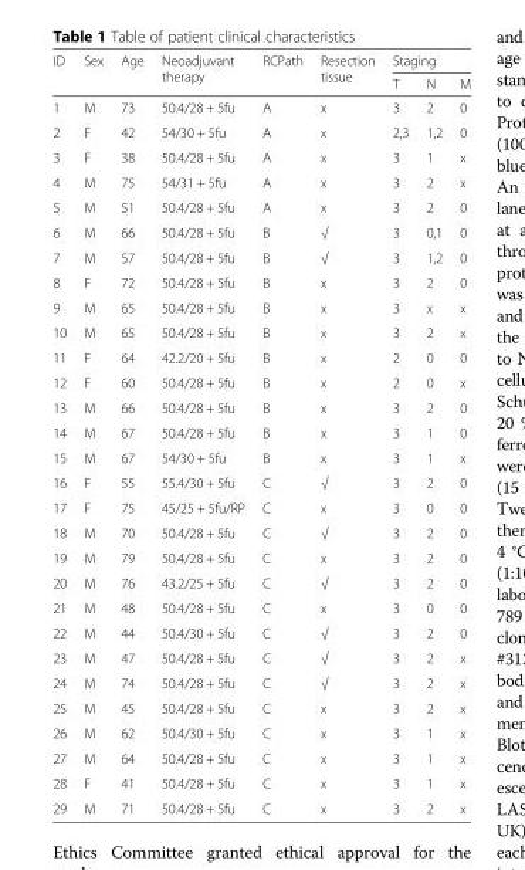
<table><thead><tr><td rowspan="2">ID</td><td rowspan="2">Sex</td><td rowspan="2">Age</td><td rowspan="2">Neoadjuvant therapy</td><td rowspan="2">RCPath</td><td rowspan="2">Resection tissue</td><td colspan="3">Staging</td></tr><tr><td>T</td><td>N</td><td>M</td></tr></thead><tbody><tr><td>1</td><td>M</td><td>73</td><td>50.4/28 + 5fu</td><td>A</td><td>x</td><td>3</td><td>2</td><td>0</td></tr><tr><td>2</td><td>F</td><td>42</td><td>54/30 + 5fu</td><td>A</td><td>x</td><td>2,3</td><td>1,2</td><td>0</td></tr><tr><td>3</td><td>F</td><td>38</td><td>50.4/28 + 5fu</td><td>A</td><td>x</td><td>3</td><td>1</td><td>x</td></tr><tr><td>4</td><td>M</td><td>75</td><td>54/31 + 5fu</td><td>A</td><td>x</td><td>3</td><td>2</td><td>x</td></tr><tr><td>5</td><td>M</td><td>51</td><td>50.4/28 + 5fu</td><td>A</td><td>x</td><td>3</td><td>2</td><td>0</td></tr><tr><td>6</td><td>M</td><td>66</td><td>50.4/28 + 5fu</td><td>B</td><td>√</td><td>3</td><td>0,1</td><td>0</td></tr><tr><td>7</td><td>M</td><td>57</td><td>50.4/28 + 5fu</td><td>B</td><td>√</td><td>3</td><td>1,2</td><td>0</td></tr><tr><td>8</td><td>F</td><td>72</td><td>50.4/28 + 5fu</td><td>B</td><td>x</td><td>3</td><td>2</td><td>0</td></tr><tr><td>9</td><td>M</td><td>65</td><td>50.4/28 + 5fu</td><td>B</td><td>x</td><td>3</td><td>x</td><td>x</td></tr><tr><td>10</td><td>M</td><td>65</td><td>50.4/28 + 5fu</td><td>B</td><td>x</td><td>3</td><td>2</td><td>x</td></tr><tr><td>11</td><td>F</td><td>64</td><td>42.2/20 + 5fu</td><td>B</td><td>x</td><td>2</td><td>0</td><td>0</td></tr><tr><td>12</td><td>F</td><td>60</td><td>50.4/28 + 5fu</td><td>B</td><td>x</td><td>2</td><td>0</td><td>x</td></tr><tr><td>13</td><td>M</td><td>66</td><td>50.4/28 + 5fu</td><td>B</td><td>x</td><td>3</td><td>2</td><td>0</td></tr><tr><td>14</td><td>M</td><td>67</td><td>50.4/28 + 5fu</td><td>B</td><td>x</td><td>3</td><td>1</td><td>0</td></tr><tr><td>15</td><td>M</td><td>67</td><td>54/30 + 5fu</td><td>B</td><td>x</td><td>3</td><td>1</td><td>x</td></tr><tr><td>16</td><td>F</td><td>55</td><td>55.4/30 + 5fu</td><td>C</td><td>√</td><td>3</td><td>2</td><td>0</td></tr><tr><td>17</td><td>F</td><td>75</td><td>45/25 + 5fu/RP</td><td>C</td><td>x</td><td>3</td><td>0</td><td>0</td></tr><tr><td>18</td><td>M</td><td>70</td><td>50.4/28 + 5fu</td><td>C</td><td>√</td><td>3</td><td>2</td><td>0</td></tr><tr><td>19</td><td>M</td><td>79</td><td>50.4/28 + 5fu</td><td>C</td><td>x</td><td>3</td><td>2</td><td>0</td></tr><tr><td>20</td><td>M</td><td>76</td><td>43.2/25 + 5fu</td><td>C</td><td>√</td><td>3</td><td>2</td><td>0</td></tr><tr><td>21</td><td>M</td><td>48</td><td>50.4/28 + 5fu</td><td>C</td><td>x</td><td>3</td><td>0</td><td>0</td></tr><tr><td>22</td><td>M</td><td>44</td><td>50.4/30 + 5fu</td><td>C</td><td>√</td><td>3</td><td>2</td><td>0</td></tr><tr><td>23</td><td>M</td><td>47</td><td>50.4/28 + 5fu</td><td>C</td><td>√</td><td>3</td><td>2</td><td>x</td></tr><tr><td>24</td><td>M</td><td>74</td><td>50.4/28 + 5fu</td><td>C</td><td>√</td><td>3</td><td>2</td><td>x</td></tr><tr><td>25</td><td>M</td><td>45</td><td>50.4/28 + 5fu</td><td>C</td><td>x</td><td>3</td><td>2</td><td>x</td></tr><tr><td>26</td><td>M</td><td>62</td><td>50.4/30 + 5fu</td><td>C</td><td>x</td><td>3</td><td>1</td><td>x</td></tr><tr><td>27</td><td>M</td><td>64</td><td>50.4/28 + 5fu</td><td>C</td><td>x</td><td>3</td><td>1</td><td>x</td></tr><tr><td>28</td><td>F</td><td>41</td><td>50.4/28 + 5fu</td><td>C</td><td>x</td><td>3</td><td>1</td><td>x</td></tr><tr><td>29</td><td>M</td><td>71</td><td>50.4/28 + 5fu</td><td>C</td><td>x</td><td>3</td><td>2</td><td>x</td></tr></tbody></table>